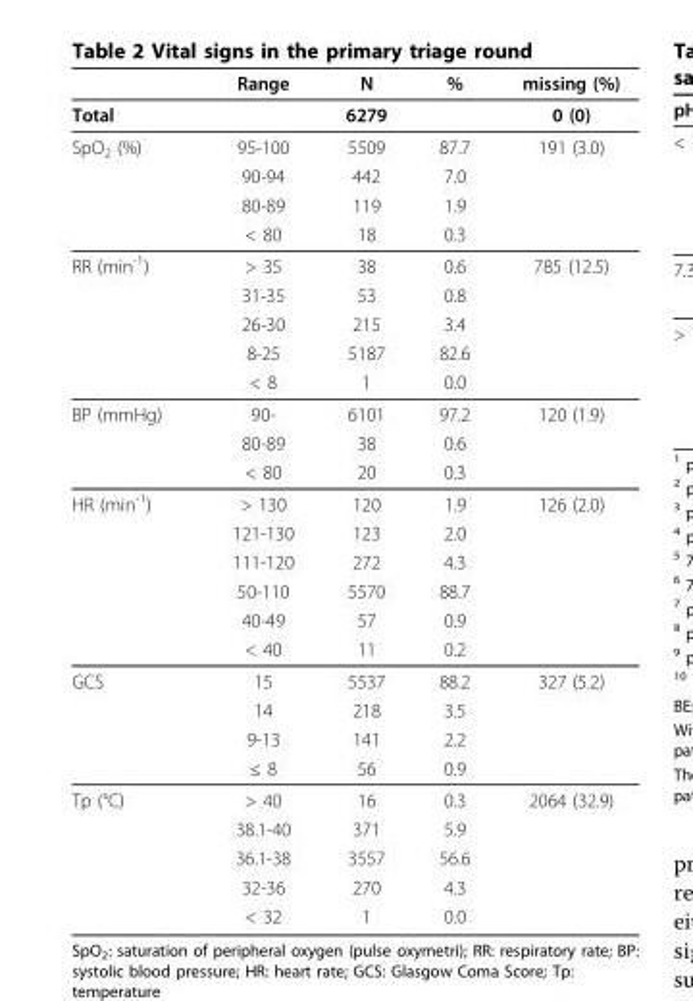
<table><thead><tr><td></td><td>Range</td><td>N</td><td>%</td><td>missing (%)</td></tr></thead><tbody><tr><td>Total</td><td></td><td>6279</td><td></td><td>0 (0)</td></tr><tr><td rowspan="4">SpO<sub>2</sub> (%)</td><td>95-100</td><td>5509</td><td>87.7</td><td>191 (3.0)</td></tr><tr><td>90-94</td><td>442</td><td>7.0</td><td></td></tr><tr><td>80-89</td><td>119</td><td>1.9</td><td></td></tr><tr><td>&lt; 80</td><td>18</td><td>0.3</td><td></td></tr><tr><td rowspan="5">RR (min<sup>-1</sup>)</td><td>&gt; 35</td><td>38</td><td>0.6</td><td>785 (12.5)</td></tr><tr><td>31-35</td><td>53</td><td>0.8</td><td></td></tr><tr><td>26-30</td><td>215</td><td>3.4</td><td></td></tr><tr><td>8-25</td><td>5187</td><td>82.6</td><td></td></tr><tr><td>&lt; 8</td><td>1</td><td>0.0</td><td></td></tr><tr><td rowspan="3">BP (mmHg)</td><td>90-</td><td>6101</td><td>97.2</td><td>120 (1.9)</td></tr><tr><td>80-89</td><td>38</td><td>0.6</td><td></td></tr><tr><td>&lt; 80</td><td>20</td><td>0.3</td><td></td></tr><tr><td rowspan="6">HR (min<sup>-1</sup>)</td><td>&gt; 130</td><td>120</td><td>1.9</td><td>126 (2.0)</td></tr><tr><td>121-130</td><td>123</td><td>2.0</td><td></td></tr><tr><td>111-120</td><td>272</td><td>4.3</td><td></td></tr><tr><td>50-110</td><td>5570</td><td>88.7</td><td></td></tr><tr><td>40-49</td><td>57</td><td>0.9</td><td></td></tr><tr><td>&lt; 40</td><td>11</td><td>0.2</td><td></td></tr><tr><td rowspan="4">GCS</td><td>15</td><td>5537</td><td>88.2</td><td>327 (5.2)</td></tr><tr><td>14</td><td>218</td><td>3.5</td><td></td></tr><tr><td>9-13</td><td>141</td><td>2.2</td><td></td></tr><tr><td>≤ 8</td><td>56</td><td>0.9</td><td></td></tr><tr><td rowspan="5">Tp (°C)</td><td>&gt; 40</td><td>16</td><td>0.3</td><td>2064 (32.9)</td></tr><tr><td>38.1-40</td><td>371</td><td>5.9</td><td></td></tr><tr><td>36.1-38</td><td>3557</td><td>56.6</td><td></td></tr><tr><td>32-36</td><td>270</td><td>4.3</td><td></td></tr><tr><td>&lt; 32</td><td>1</td><td>0.0</td><td></td></tr></tbody></table>